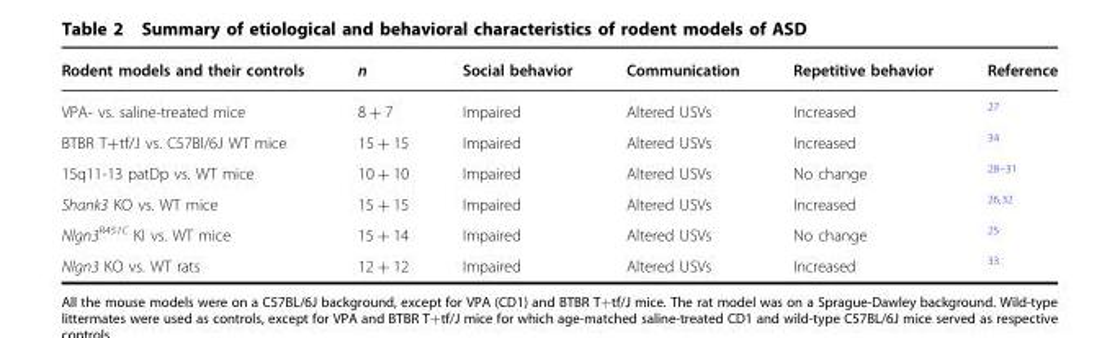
<table><thead><tr><td>Rodent models and their controls</td><td>n</td><td>Social behavior</td><td>Communication</td><td>Repetitive behavior</td><td>Reference</td></tr></thead><tbody><tr><td>VPA- vs. saline-treated mice</td><td>8 + 7</td><td>Impaired</td><td>Altered USVs</td><td>Increased</td><td><sup>27</sup></td></tr><tr><td>BTBR T+tf/J vs. C57Bl/6J WT mice</td><td>15 + 15</td><td>Impaired</td><td>Altered USVs</td><td>Increased</td><td><sup>34</sup></td></tr><tr><td>15q11-13 patDp vs. WT mice</td><td>10 + 10</td><td>Impaired</td><td>Altered USVs</td><td>No change</td><td><sup>28–31</sup></td></tr><tr><td>Shank3 KO vs. WT mice</td><td>15 + 15</td><td>Impaired</td><td>Altered USVs</td><td>Increased</td><td><sup>26,32</sup></td></tr><tr><td>Nlgn3<sup>R451C</sup> KI vs. WT mice</td><td>15 + 14</td><td>Impaired</td><td>Altered USVs</td><td>No change</td><td><sup>25</sup></td></tr><tr><td>Nlgn3 KO vs. WT rats</td><td>12 + 12</td><td>Impaired</td><td>Altered USVs</td><td>Increased</td><td><sup>33</sup></td></tr></tbody></table>